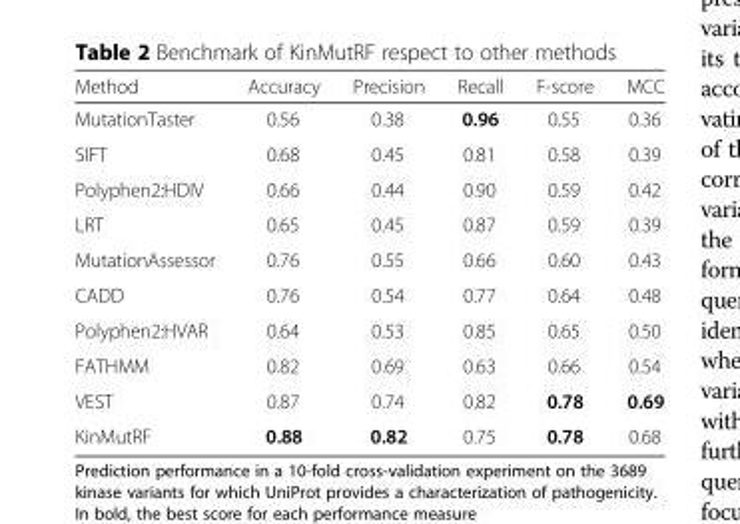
<table><thead><tr><td>Method</td><td>Accuracy</td><td>Precision</td><td>Recall</td><td>F-score</td><td>MCC</td></tr></thead><tbody><tr><td>MutationTaster</td><td>0.56</td><td>0.38</td><td>0.96</td><td>0.55</td><td>0.36</td></tr><tr><td>SIFT</td><td>0.68</td><td>0.45</td><td>0.81</td><td>0.58</td><td>0.39</td></tr><tr><td>Polyphen2:HDIV</td><td>0.66</td><td>0.44</td><td>0.90</td><td>0.59</td><td>0.42</td></tr><tr><td>LRT</td><td>0.65</td><td>0.45</td><td>0.87</td><td>0.59</td><td>0.39</td></tr><tr><td>MutationAssessor</td><td>0.76</td><td>0.55</td><td>0.66</td><td>0.60</td><td>0.43</td></tr><tr><td>CADD</td><td>0.76</td><td>0.54</td><td>0.77</td><td>0.64</td><td>0.48</td></tr><tr><td>Polyphen2:HVAR</td><td>0.64</td><td>0.53</td><td>0.85</td><td>0.65</td><td>0.50</td></tr><tr><td>FATHMM</td><td>0.82</td><td>0.69</td><td>0.63</td><td>0.66</td><td>0.54</td></tr><tr><td>VEST</td><td>0.87</td><td>0.74</td><td>0.82</td><td>0.78</td><td>0.69</td></tr><tr><td>KinMutRF</td><td>0.88</td><td>0.82</td><td>0.75</td><td>0.78</td><td>0.68</td></tr></tbody></table>